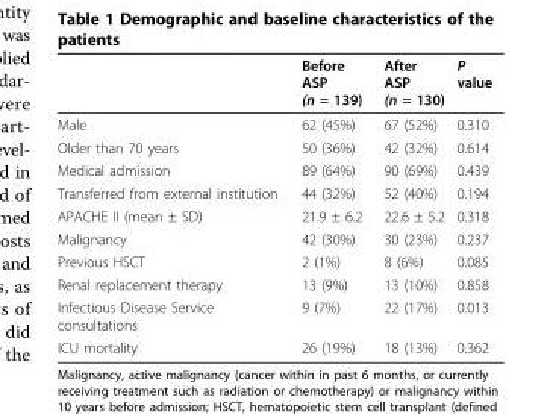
<table><thead><tr><td></td><td>Before ASP (n = 139)</td><td>After ASP (n = 130)</td><td>P value</td></tr></thead><tbody><tr><td>Male</td><td>62 (45%)</td><td>67 (52%)</td><td>0.310</td></tr><tr><td>Older than 70 years</td><td>50 (36%)</td><td>42 (32%)</td><td>0.614</td></tr><tr><td>Medical admission</td><td>89 (64%)</td><td>90 (69%)</td><td>0.439</td></tr><tr><td>Transferred from external institution</td><td>44 (32%)</td><td>52 (40%)</td><td>0.194</td></tr><tr><td>APACHE II (mean ± SD)</td><td>21.9 ± 6.2</td><td>22.6 ± 5.2</td><td>0.318</td></tr><tr><td>Malignancy</td><td>42 (30%)</td><td>30 (23%)</td><td>0.237</td></tr><tr><td>Previous HSCT</td><td>2 (1%)</td><td>8 (6%)</td><td>0.085</td></tr><tr><td>Renal replacement therapy</td><td>13 (9%)</td><td>13 (10%)</td><td>0.858</td></tr><tr><td>Infectious Disease Service consultations</td><td>9 (7%)</td><td>22 (17%)</td><td>0.013</td></tr><tr><td>ICU mortality</td><td>26 (19%)</td><td>18 (13%)</td><td>0.362</td></tr></tbody></table>